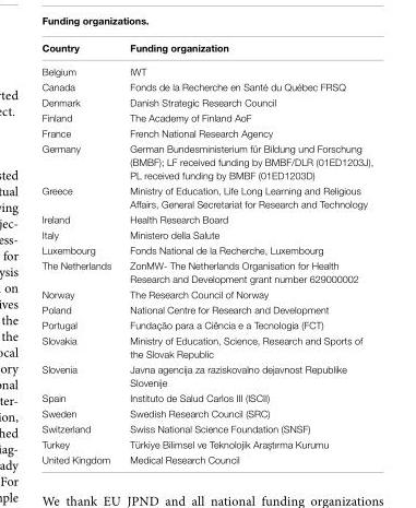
<table><thead><tr><td>country</td><td>Funding organization</td></tr></thead><tbody><tr><td>Belgium</td><td>IWT</td></tr><tr><td>Canada</td><td>Fonds de la Recherche en Santé du Québec FRSQ</td></tr><tr><td>Denmark</td><td>Danish Strategic Research Council</td></tr><tr><td>Finland</td><td>The Academy of Finland AoF</td></tr><tr><td>France</td><td>French National Research Agency</td></tr><tr><td>Germany</td><td>German Bundesministerium für Bildung und Forschung (BMBF); LF received funding by BMBF/DLR (01ED1203J), PL received funding by BMBF (01ED1203D)</td></tr><tr><td>Greece</td><td>Ministry of Education, Life Long Learning and Religious Affairs, General Secretariat for Research and Technology</td></tr><tr><td>Ireland</td><td>Health Research Board</td></tr><tr><td>Italy</td><td>Ministero della Salute</td></tr><tr><td>Luxembourg</td><td>Fonds National de la Recherche, Luxembourg</td></tr><tr><td>The Netherlands</td><td>ZonMW- The Netherlands Organisation for Health Research and Development grant number 629000002</td></tr><tr><td>Norway</td><td>The Research Council of Norway</td></tr><tr><td>Poland</td><td>National Centre for Research and Development</td></tr><tr><td>Portugal</td><td>Fundação para a Ciência e a Tecnologia (FCT)</td></tr><tr><td>Slovakia</td><td>Ministry of Education, Science, Research and Sports of the Slovak Republic</td></tr><tr><td>Slovenia</td><td>Javna agencija za raziskovalno dejavnost Republike Slovenije</td></tr><tr><td>Spain</td><td>Instituto de Salud Carlos III (ISCII)</td></tr><tr><td>Sweden</td><td>Swedish Research Council (SRC)</td></tr><tr><td>Switzerland</td><td>Swiss National Science Foundation (SNSF)</td></tr><tr><td>Turkey</td><td>Türkiye Bilimsel ve Teknolojik Aras˛tırma Kurumu</td></tr><tr><td>United Kingdom</td><td>Medical Research Council</td></tr></tbody></table>